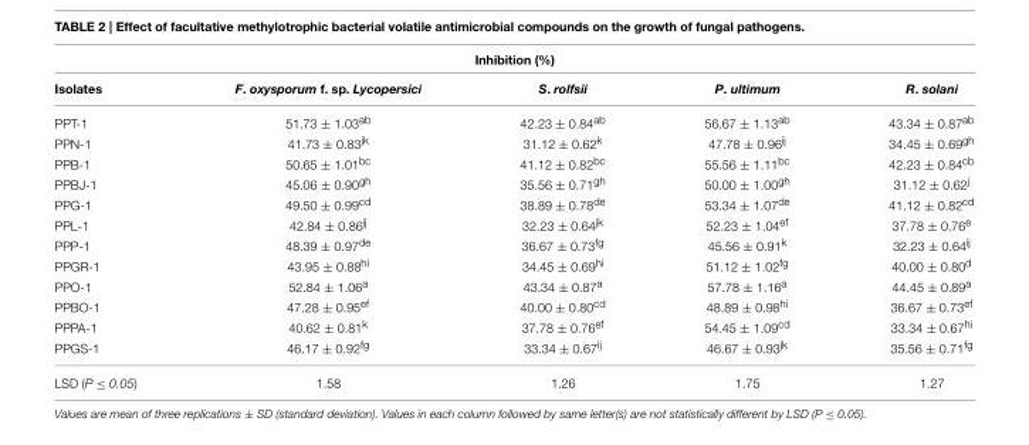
<table><thead><tr><td colspan="5">Inhibition (%)</td></tr><tr><td>Isolates</td><td>F. oxysporum f. sp. Lycopersici</td><td>S. rolfsii</td><td>P. ultimum</td><td>R. solani</td></tr></thead><tbody><tr><td>PPT-1</td><td>51.73 ± 1.03<sup>ab</sup></td><td>42.23 ± 0.84<sup>ab</sup></td><td>56.67 ± 1.13<sup>ab</sup></td><td>43.34 ± 0.87<sup>ab</sup></td></tr><tr><td>PPN-1</td><td>41.73 ± 0.83<sup>jk</sup></td><td>31.12 ± 0.62<sup>k</sup></td><td>47.78 ± 0.96<sup>ij</sup></td><td>34.45 ± 0.69<sup>gh</sup></td></tr><tr><td>PPB-1</td><td>50.65 ± 1.01<sup>bc</sup></td><td>41.12 ± 0.82<sup>bc</sup></td><td>55.56 ± 1.11<sup>bc</sup></td><td>42.23 ± 0.84<sup>cb</sup></td></tr><tr><td>PPBJ-1</td><td>45.06 ± 0.90<sup>gh</sup></td><td>35.56 ± 0.71<sup>gh</sup></td><td>50.00 ± 1.00<sup>gh</sup></td><td>31.12 ± 0.62<sup>j</sup></td></tr><tr><td>PPG-1</td><td>49.50 ± 0.99<sup>cd</sup></td><td>38.89 ± 0.78<sup>de</sup></td><td>53.34 ± 1.07<sup>de</sup></td><td>41.12 ± 0.82<sup>cd</sup></td></tr><tr><td>PPL-1</td><td>42.84 ± 0.86<sup>ij</sup></td><td>32.23 ± 0.64<sup>jk</sup></td><td>52.23 ± 1.04<sup>ef</sup></td><td>37.78 ± 0.76<sup>e</sup></td></tr><tr><td>PPP-1</td><td>48.39 ± 0.97<sup>de</sup></td><td>36.67 ± 0.73<sup>fg</sup></td><td>45.56 ± 0.91<sup>k</sup></td><td>32.23 ± 0.64<sup>ij</sup></td></tr><tr><td>PPGR-1</td><td>43.95 ± 0.88<sup>hi</sup></td><td>34.45 ± 0.69<sup>hi</sup></td><td>51.12 ± 1.02<sup>fg</sup></td><td>40.00 ± 0.80<sup>d</sup></td></tr><tr><td>PPO-1</td><td>52.84 ± 1.06<sup>a</sup></td><td>43.34 ± 0.87<sup>a</sup></td><td>57.78 ± 1.16<sup>a</sup></td><td>44.45 ± 0.89<sup>a</sup></td></tr><tr><td>PPBO-1</td><td>47.28 ± 0.95<sup>ef</sup></td><td>40.00 ± 0.80<sup>cd</sup></td><td>48.89 ± 0.98<sup>hi</sup></td><td>36.67 ± 0.73<sup>ef</sup></td></tr><tr><td>PPPA-1</td><td>40.62 ± 0.81<sup>k</sup></td><td>37.78 ± 0.76<sup>ef</sup></td><td>54.45 ± 1.09<sup>cd</sup></td><td>33.34 ± 0.67<sup>hi</sup></td></tr><tr><td>PPGS-1</td><td>46.17 ± 0.92<sup>fg</sup></td><td>33.34 ± 0.67<sup>ij</sup></td><td>46.67 ± 0.93<sup>jk</sup></td><td>35.56 ± 0.71<sup>fg</sup></td></tr><tr><td>LSD (P ≤ 0.05)</td><td>1.58</td><td>1.26</td><td>1.75</td><td>1.27</td></tr></tbody></table>